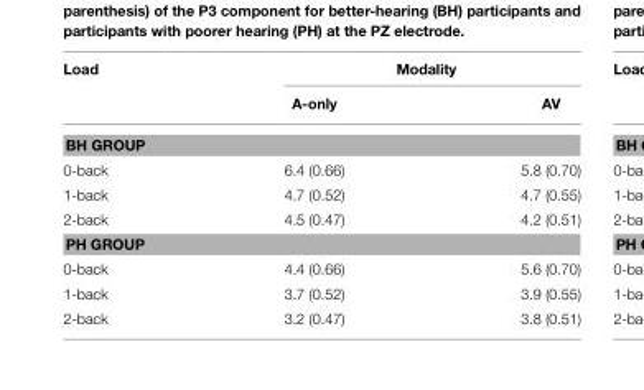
<table><thead><tr><td rowspan="2">Load</td><td colspan="2">Modality</td></tr><tr><td>A-only</td><td>AV</td></tr></thead><tbody><tr><td colspan="3">BH GROUP</td></tr><tr><td>0-back</td><td>6.4 (0.66)</td><td>5.8 (0.70)</td></tr><tr><td>1-back</td><td>4.7 (0.52)</td><td>4.7 (0.55)</td></tr><tr><td>2-back</td><td>4.5 (0.47)</td><td>4.2 (0.51)</td></tr><tr><td colspan="3">PH GROUP</td></tr><tr><td>0-back</td><td>4.4 (0.66)</td><td>5.6 (0.70)</td></tr><tr><td>1-back</td><td>3.7 (0.52)</td><td>3.9 (0.55)</td></tr><tr><td>2-back</td><td>3.2 (0.47)</td><td>3.8 (0.51)</td></tr></tbody></table>